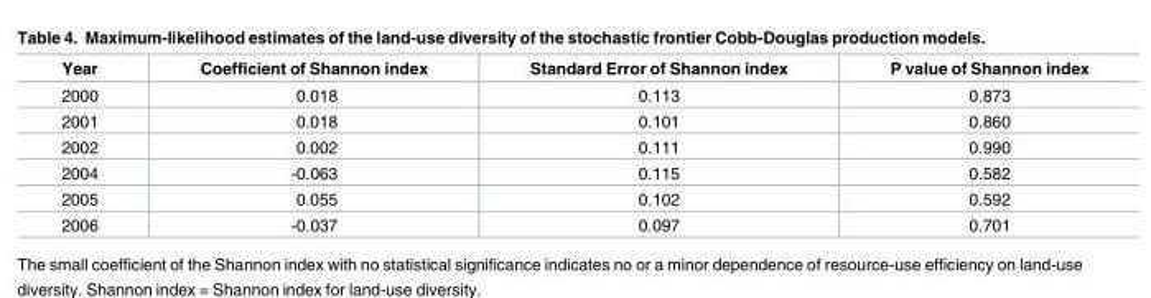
<table><thead><tr><td>Year</td><td>Coefficient of Shannon index</td><td>Standard Error of Shannon index</td><td>P value of Shannon index</td></tr></thead><tbody><tr><td>2000</td><td>0.018</td><td>0.113</td><td>0.873</td></tr><tr><td>2001</td><td>0.018</td><td>0.101</td><td>0.860</td></tr><tr><td>2002</td><td>0.002</td><td>0.111</td><td>0.990</td></tr><tr><td>2004</td><td>-0.063</td><td>0.115</td><td>0.582</td></tr><tr><td>2005</td><td>0.055</td><td>0.102</td><td>0.592</td></tr><tr><td>2006</td><td>-0.037</td><td>0.097</td><td>0.701</td></tr></tbody></table>